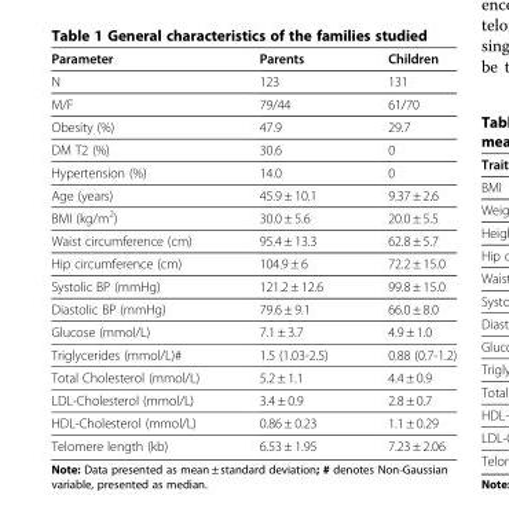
<table><thead><tr><td>Parameter</td><td>Parents</td><td>Children</td></tr></thead><tbody><tr><td>N</td><td>123</td><td>131</td></tr><tr><td>M/F</td><td>79/44</td><td>61/70</td></tr><tr><td>Obesity (%)</td><td>47.9</td><td>29.7</td></tr><tr><td>DM T2 (%)</td><td>30.6</td><td>0</td></tr><tr><td>Hypertension (%)</td><td>14.0</td><td>0</td></tr><tr><td>Age (years)</td><td>45.9 ± 10.1</td><td>9.37 ± 2.6</td></tr><tr><td>BMI (kg/m<sup>2</sup>)</td><td>30.0 ± 5.6</td><td>20.0 ± 5.5</td></tr><tr><td>Waist circumference (cm)</td><td>95.4 ± 13.3</td><td>62.8 ± 5.7</td></tr><tr><td>Hip circumference (cm)</td><td>104.9 ± 6</td><td>72.2 ± 15.0</td></tr><tr><td>Systolic BP (mmHg)</td><td>121.2 ± 12.6</td><td>99.8 ± 15.0</td></tr><tr><td>Diastolic BP (mmHg)</td><td>79.6 ± 9.1</td><td>66.0 ± 8.0</td></tr><tr><td>Glucose (mmol/L)</td><td>7.1 ± 3.7</td><td>4.9 ± 1.0</td></tr><tr><td>Triglycerides (mmol/L)#</td><td>1.5 (1.03-2.5)</td><td>0.88 (0.7-1.2)</td></tr><tr><td>Total Cholesterol (mmol/L)</td><td>5.2 ± 1.1</td><td>4.4 ± 0.9</td></tr><tr><td>LDL-Cholesterol (mmol/L)</td><td>3.4 ± 0.9</td><td>2.8 ± 0.7</td></tr><tr><td>HDL-Cholesterol (mmol/L)</td><td>0.86 ± 0.23</td><td>1.1 ± 0.29</td></tr><tr><td>Telomere length (kb)</td><td>6.53 ± 1.95</td><td>7.23 ± 2.06</td></tr></tbody></table>